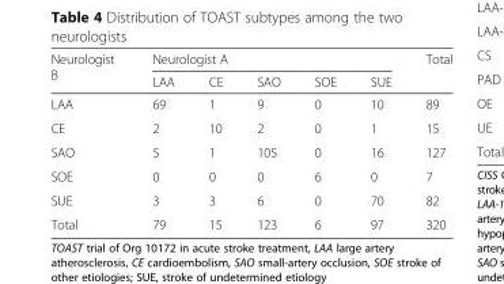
<table><thead><tr><td rowspan="2">Neurologist B</td><td colspan="5">Neurologist A</td><td rowspan="2">Total</td></tr><tr><td>LAA</td><td>CE</td><td>SAO</td><td>SOE</td><td>SUE</td></tr></thead><tbody><tr><td>LAA</td><td>69</td><td>1</td><td>9</td><td>0</td><td>10</td><td>89</td></tr><tr><td>CE</td><td>2</td><td>10</td><td>2</td><td>0</td><td>1</td><td>15</td></tr><tr><td>SAO</td><td>5</td><td>1</td><td>105</td><td>0</td><td>16</td><td>127</td></tr><tr><td>SOE</td><td>0</td><td>0</td><td>0</td><td>6</td><td>0</td><td>7</td></tr><tr><td>SUE</td><td>3</td><td>3</td><td>6</td><td>0</td><td>70</td><td>82</td></tr><tr><td>Total</td><td>79</td><td>15</td><td>123</td><td>6</td><td>97</td><td>320</td></tr></tbody></table>